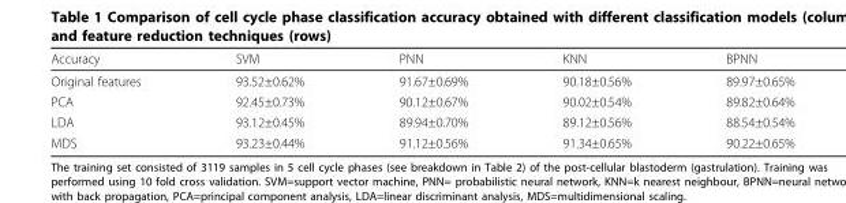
<table><thead><tr><td>Accuracy</td><td>SVM</td><td>PNN</td><td>KNN</td><td>BPNN</td></tr></thead><tbody><tr><td>Original features</td><td>93.52±0.62%</td><td>91.67±0.69%</td><td>90.18±0.56%</td><td>89.97±0.65%</td></tr><tr><td>PCA</td><td>92.45±0.73%</td><td>90.12±0.67%</td><td>90.02±0.54%</td><td>89.82±0.64%</td></tr><tr><td>LDA</td><td>93.12±0.45%</td><td>89.94±0.70%</td><td>89.12±0.56%</td><td>88.54±0.54%</td></tr><tr><td>MDS</td><td>93.23±0.44%</td><td>91.12±0.56%</td><td>91.34±0.65%</td><td>90.22±0.65%</td></tr></tbody></table>